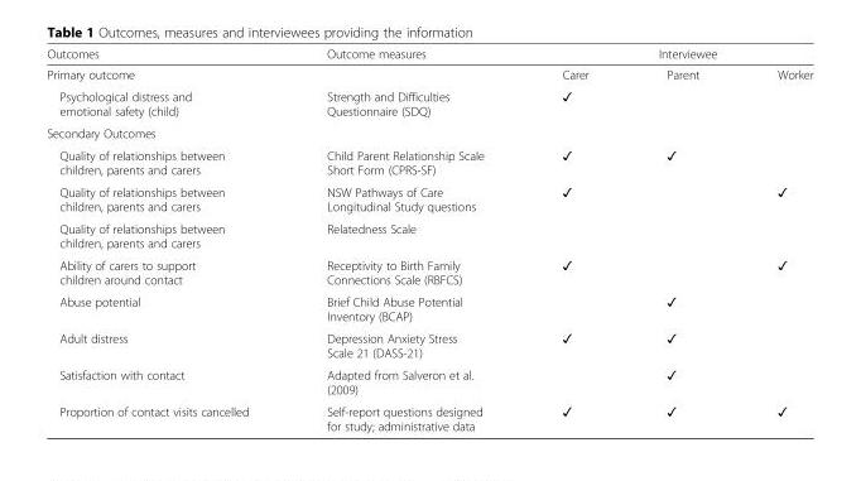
<table><thead><tr><td rowspan="2">Outcomes Primary outcome</td><td rowspan="2">Outcome measures</td><td colspan="3">Interviewee</td></tr><tr><td>Carer</td><td>Parent</td><td>Worker</td></tr></thead><tbody><tr><td>Psychological distress and emotional safety (child)</td><td>Strength and Difficulties Questionnaire (SDQ)</td><td>✓</td><td></td><td></td></tr><tr><td colspan="5">Secondary Outcomes</td></tr><tr><td>Quality of relationships between children, parents and carers</td><td>Child Parent Relationship Scale Short Form (CPRS-SF)</td><td>✓</td><td>✓</td><td></td></tr><tr><td>Quality of relationships between children, parents and carers</td><td>NSW Pathways of Care Longitudinal Study questions</td><td>✓</td><td></td><td>✓</td></tr><tr><td>Quality of relationships between children, parents and carers</td><td>Relatedness Scale</td><td></td><td></td><td></td></tr><tr><td>Ability of carers to support children around contact</td><td>Receptivity to Birth Family Connections Scale (RBFCS)</td><td>✓</td><td></td><td>✓</td></tr><tr><td>Abuse potential</td><td>Brief Child Abuse Potential Inventory (BCAP)</td><td></td><td>✓</td><td></td></tr><tr><td>Adult distress</td><td>Depression Anxiety Stress Scale 21 (DASS-21)</td><td>✓</td><td>✓</td><td></td></tr><tr><td>Satisfaction with contact</td><td>Adapted from Salveron et al. (2009)</td><td></td><td>✓</td><td></td></tr><tr><td>Proportion of contact visits cancelled</td><td>Self-report questions designed for study; administrative data</td><td>✓</td><td>✓</td><td>✓</td></tr></tbody></table>